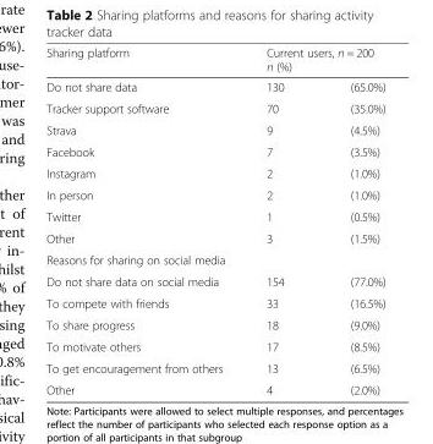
<table><thead><tr><td rowspan="2">Sharing platform Do not share data</td><td colspan="2">Current users, n = 200 n (%)</td></tr><tr><td>130</td><td>(65.0%)</td></tr></thead><tbody><tr><td>Tracker support software</td><td>70</td><td>(35.0%)</td></tr><tr><td>Strava</td><td>9</td><td>(4.5%)</td></tr><tr><td>Facebook</td><td>7</td><td>(3.5%)</td></tr><tr><td>Instagram</td><td>2</td><td>(1.0%)</td></tr><tr><td>In person</td><td>2</td><td>(1.0%)</td></tr><tr><td>Twitter</td><td>1</td><td>(0.5%)</td></tr><tr><td>Other</td><td>3</td><td>(1.5%)</td></tr><tr><td colspan="3">Reasons for sharing on social media</td></tr><tr><td>Do not share data on social media</td><td>154</td><td>(77.0%)</td></tr><tr><td>To compete with friends</td><td>33</td><td>(16.5%)</td></tr><tr><td>To share progress</td><td>18</td><td>(9.0%)</td></tr><tr><td>To motivate others</td><td>17</td><td>(8.5%)</td></tr><tr><td>To get encouragement from others</td><td>13</td><td>(6.5%)</td></tr><tr><td>Other</td><td>4</td><td>(2.0%)</td></tr></tbody></table>